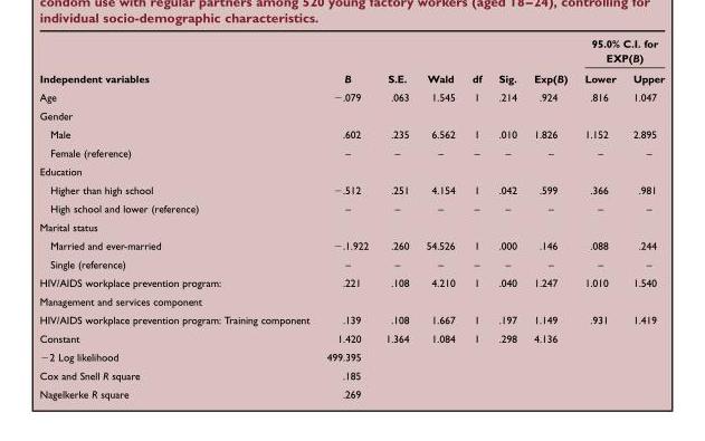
<table><thead><tr><td rowspan="2">Independent variables</td><td rowspan="2">B</td><td rowspan="2">S.E.</td><td rowspan="2">Wald</td><td rowspan="2">df</td><td rowspan="2">Sig.</td><td rowspan="2">Exp(B)</td><td colspan="2">95.0% C.I. for EXP(B)</td></tr><tr><td>Lower</td><td>Upper</td></tr></thead><tbody><tr><td>Age</td><td>−.079</td><td>.063</td><td>1.545</td><td>1</td><td>.214</td><td>.924</td><td>.816</td><td>1.047</td></tr><tr><td colspan="9">Gender</td></tr><tr><td>Male</td><td>.602</td><td>.235</td><td>6.562</td><td>1</td><td>.010</td><td>1.826</td><td>1.152</td><td>2.895</td></tr><tr><td>Female (reference)</td><td>–</td><td>–</td><td>–</td><td>–</td><td>–</td><td>–</td><td>–</td><td>–</td></tr><tr><td colspan="9">Education</td></tr><tr><td>Higher than high school</td><td>−.512</td><td>.251</td><td>4.154</td><td>1</td><td>.042</td><td>.599</td><td>.366</td><td>.981</td></tr><tr><td>High school and lower (reference)</td><td>–</td><td>–</td><td>–</td><td>–</td><td>–</td><td>–</td><td>–</td><td>–</td></tr><tr><td colspan="9">Marital status</td></tr><tr><td>Married and ever-married</td><td>−.1.922</td><td>.260</td><td>54.526</td><td>1</td><td>.000</td><td>.146</td><td>.088</td><td>.244</td></tr><tr><td>Single (reference)</td><td>–</td><td>–</td><td>–</td><td>–</td><td>–</td><td>–</td><td>–</td><td>–</td></tr><tr><td>HIV/AIDS workplace prevention program:</td><td>.221</td><td>.108</td><td>4.210</td><td>1</td><td>.040</td><td>1.247</td><td>1.010</td><td>1.540</td></tr><tr><td colspan="9">Management and services component</td></tr><tr><td>HIV/AIDS workplace prevention program: Training component</td><td>.139</td><td>.108</td><td>1.667</td><td>1</td><td>.197</td><td>1.149</td><td>.931</td><td>1.419</td></tr><tr><td>Constant</td><td>1.420</td><td>1.364</td><td>1.084</td><td>1</td><td>.298</td><td>4.136</td><td></td><td></td></tr><tr><td>−2 Log likelihood</td><td>499.395</td><td></td><td></td><td></td><td></td><td></td><td></td><td></td></tr><tr><td>Cox and Snell R square</td><td>.185</td><td></td><td></td><td></td><td></td><td></td><td></td><td></td></tr><tr><td>Nagelkerke R square</td><td>.269</td><td></td><td></td><td></td><td></td><td></td><td></td><td></td></tr></tbody></table>